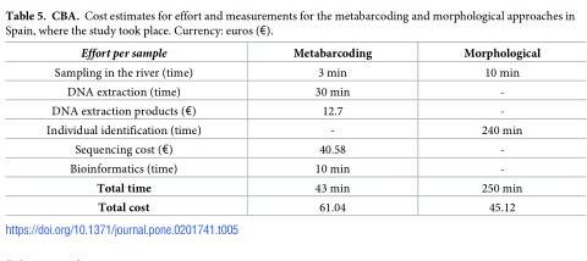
<table><thead><tr><td>Effort per sample</td><td>Metabarcoding</td><td>Morphological</td></tr></thead><tbody><tr><td>Sampling in the river (time)</td><td>3 min</td><td>10 min</td></tr><tr><td>DNA extraction (time)</td><td>30 min</td><td>-</td></tr><tr><td>DNA extraction products (€)</td><td>12.7</td><td>-</td></tr><tr><td>Individual identification (time)</td><td>-</td><td>240 min</td></tr><tr><td>Sequencing cost (€)</td><td>40.58</td><td>-</td></tr><tr><td>Bioinformatics (time)</td><td>10 min</td><td>-</td></tr><tr><td>Total time</td><td>43 min</td><td>250 min</td></tr><tr><td>Total cost</td><td>61.04</td><td>45.12</td></tr></tbody></table>